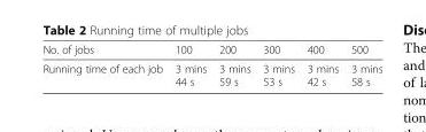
<table><thead><tr><td>No. of jobs</td><td>100</td><td>200</td><td>300</td><td>400</td><td>500</td></tr></thead><tbody><tr><td>Running time of each job</td><td>3 mins 44 s</td><td>3 mins 59 s</td><td>3 mins 53 s</td><td>3 mins 42 s</td><td>3 mins 58 s</td></tr></tbody></table>